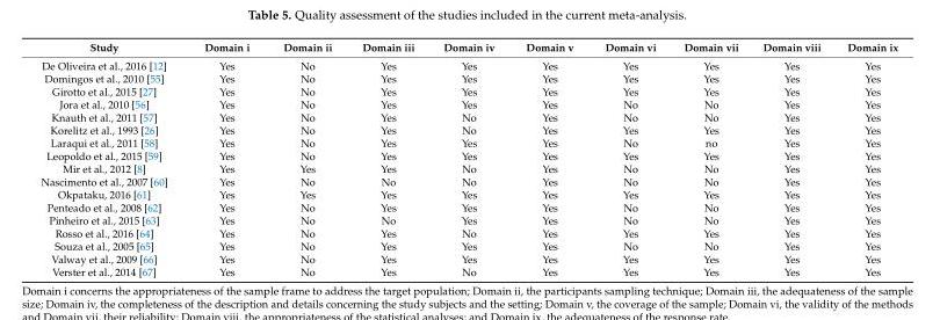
<table><thead><tr><td>Study</td><td>Domain i</td><td>Domain ii</td><td>Domain iii</td><td>Domain iv</td><td>Domain v</td><td>Domain vi</td><td>Domain vii</td><td>Domain viii</td><td>Domain ix</td></tr></thead><tbody><tr><td>De Oliveira et al., 2016 [12]</td><td>Yes</td><td>No</td><td>Yes</td><td>Yes</td><td>Yes</td><td>Yes</td><td>Yes</td><td>Yes</td><td>Yes</td></tr><tr><td>Domingos et al., 2010 [55]</td><td>Yes</td><td>No</td><td>Yes</td><td>Yes</td><td>Yes</td><td>Yes</td><td>Yes</td><td>Yes</td><td>Yes</td></tr><tr><td>Girotto et al., 2015 [27]</td><td>Yes</td><td>No</td><td>Yes</td><td>Yes</td><td>Yes</td><td>Yes</td><td>Yes</td><td>Yes</td><td>Yes</td></tr><tr><td>Jora et al., 2010 [56]</td><td>Yes</td><td>No</td><td>Yes</td><td>Yes</td><td>Yes</td><td>No</td><td>No</td><td>Yes</td><td>Yes</td></tr><tr><td>Knauth et al., 2011 [57]</td><td>Yes</td><td>No</td><td>Yes</td><td>No</td><td>Yes</td><td>No</td><td>No</td><td>Yes</td><td>Yes</td></tr><tr><td>Korelitz et al., 1993 [26]</td><td>Yes</td><td>No</td><td>Yes</td><td>No</td><td>Yes</td><td>Yes</td><td>Yes</td><td>Yes</td><td>Yes</td></tr><tr><td>Laraqui et al., 2011 [58]</td><td>Yes</td><td>No</td><td>Yes</td><td>Yes</td><td>Yes</td><td>No</td><td>no</td><td>Yes</td><td>Yes</td></tr><tr><td>Leopoldo et al., 2015 [59]</td><td>Yes</td><td>No</td><td>Yes</td><td>Yes</td><td>Yes</td><td>Yes</td><td>Yes</td><td>Yes</td><td>Yes</td></tr><tr><td>Mir et al., 2012 [8]</td><td>Yes</td><td>Yes</td><td>Yes</td><td>No</td><td>Yes</td><td>No</td><td>No</td><td>Yes</td><td>Yes</td></tr><tr><td>Nascimento et al., 2007 [60]</td><td>Yes</td><td>No</td><td>No</td><td>No</td><td>Yes</td><td>No</td><td>No</td><td>Yes</td><td>Yes</td></tr><tr><td>Okpataku, 2016 [61]</td><td>Yes</td><td>Yes</td><td>Yes</td><td>Yes</td><td>Yes</td><td>Yes</td><td>Yes</td><td>Yes</td><td>Yes</td></tr><tr><td>Penteado et al., 2008 [62]</td><td>Yes</td><td>No</td><td>Yes</td><td>Yes</td><td>Yes</td><td>No</td><td>No</td><td>Yes</td><td>Yes</td></tr><tr><td>Pinheiro et al., 2015 [63]</td><td>Yes</td><td>No</td><td>No</td><td>Yes</td><td>Yes</td><td>No</td><td>No</td><td>Yes</td><td>Yes</td></tr><tr><td>Rosso et al., 2016 [64]</td><td>Yes</td><td>No</td><td>Yes</td><td>No</td><td>Yes</td><td>Yes</td><td>Yes</td><td>Yes</td><td>Yes</td></tr><tr><td>Souza et al., 2005 [65]</td><td>Yes</td><td>No</td><td>Yes</td><td>Yes</td><td>Yes</td><td>No</td><td>No</td><td>Yes</td><td>Yes</td></tr><tr><td>Valway et al., 2009 [66]</td><td>Yes</td><td>No</td><td>Yes</td><td>Yes</td><td>Yes</td><td>Yes</td><td>Yes</td><td>Yes</td><td>Yes</td></tr><tr><td>Verster et al., 2014 [67]</td><td>Yes</td><td>No</td><td>Yes</td><td>No</td><td>Yes</td><td>Yes</td><td>Yes</td><td>Yes</td><td>Yes</td></tr></tbody></table>